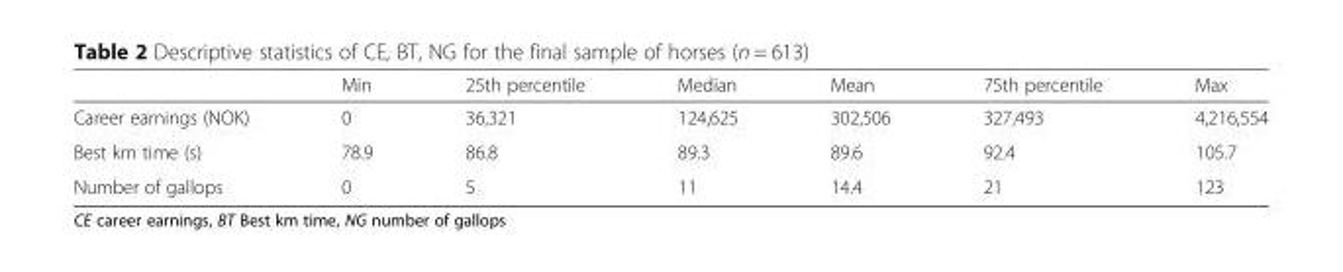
<table><thead><tr><td></td><td>Min</td><td>25th percentile</td><td>Median</td><td>Mean</td><td>75th percentile</td><td>Max</td></tr></thead><tbody><tr><td>Career earnings (NOK)</td><td>0</td><td>36,321</td><td>124,625</td><td>302,506</td><td>327,493</td><td>4,216,554</td></tr><tr><td>Best km time (s)</td><td>78.9</td><td>86.8</td><td>89.3</td><td>89.6</td><td>92.4</td><td>105.7</td></tr><tr><td>Number of gallops</td><td>0</td><td>5</td><td>11</td><td>14.4</td><td>21</td><td>123</td></tr></tbody></table>